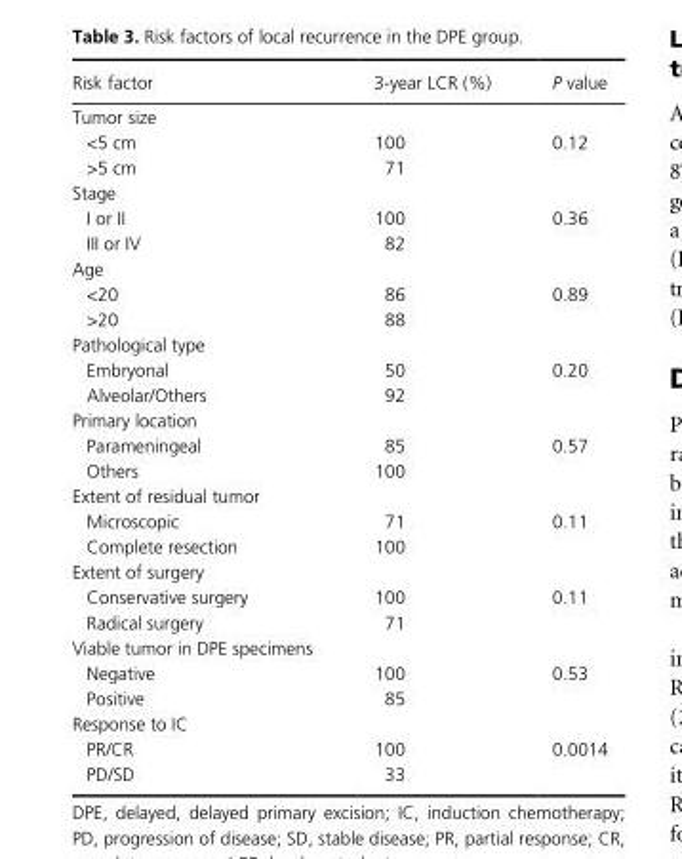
<table><thead><tr><td>Risk factor</td><td>3- year LCR (%)</td><td>P value</td></tr></thead><tbody><tr><td colspan="3">Tumor size</td></tr><tr><td>&lt;5 cm</td><td>100</td><td rowspan="2">0.12</td></tr><tr><td>&gt;5 cm</td><td>71</td></tr><tr><td colspan="3">Stage</td></tr><tr><td>I or II</td><td>100</td><td rowspan="2">0.36</td></tr><tr><td>III or IV</td><td>82</td></tr><tr><td colspan="3">Age</td></tr><tr><td>&lt;20</td><td>86</td><td rowspan="2">0.89</td></tr><tr><td>&gt;20</td><td>88</td></tr><tr><td colspan="3">Pathological type</td></tr><tr><td>Embryonal</td><td>50</td><td rowspan="2">0.20</td></tr><tr><td>Alveolar/Others</td><td>92</td></tr><tr><td colspan="3">Primary location</td></tr><tr><td>Parameningeal</td><td>85</td><td rowspan="2">0.57</td></tr><tr><td>Others</td><td>100</td></tr><tr><td colspan="3">Extent of residual tumor</td></tr><tr><td>Microscopic</td><td>71</td><td rowspan="2">0.11</td></tr><tr><td>Complete resection</td><td>100</td></tr><tr><td colspan="3">Extent of surgery</td></tr><tr><td>Conservative surgery</td><td>100</td><td rowspan="2">0.11</td></tr><tr><td>Radical surgery</td><td>71</td></tr><tr><td colspan="3">Viable tumor in DPE specimens</td></tr><tr><td>Negative</td><td>100</td><td rowspan="2">0.53</td></tr><tr><td>Positive</td><td>85</td></tr><tr><td colspan="3">Response to IC</td></tr><tr><td>PR/CR</td><td>100</td><td rowspan="2">0.0014</td></tr><tr><td>PD/SD</td><td>33</td></tr></tbody></table>